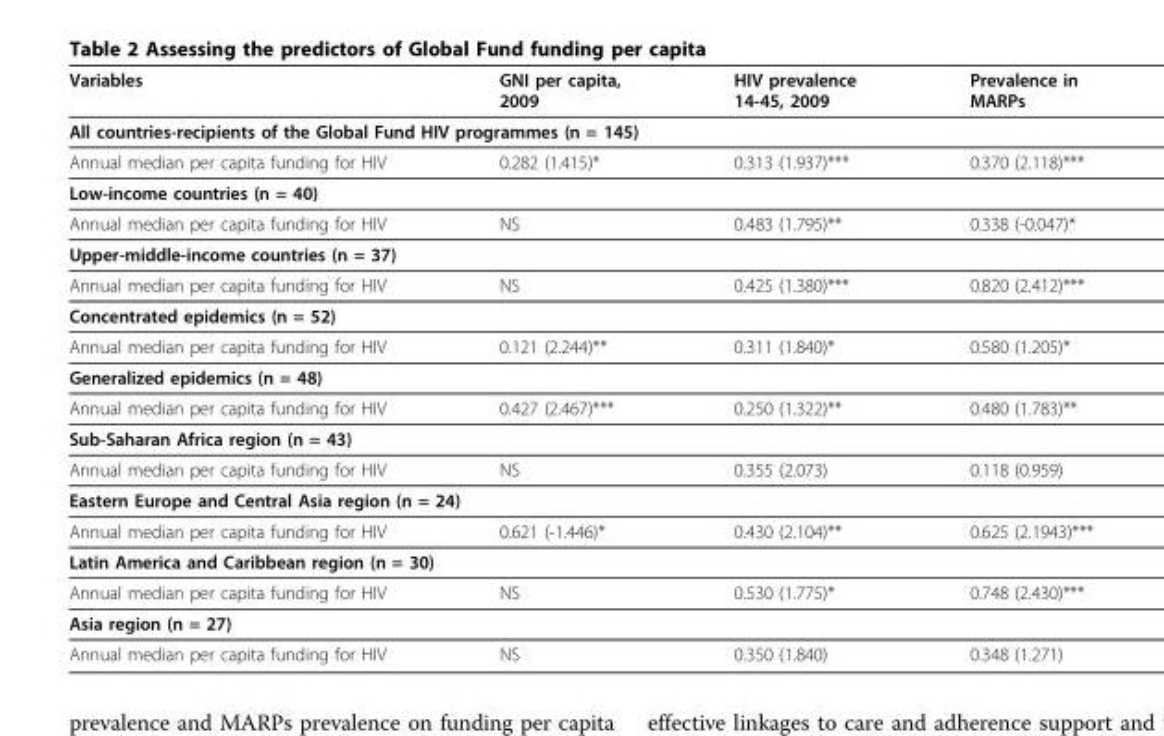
<table><thead><tr><td>Variables</td><td>GNI per capita, 2009</td><td>HIV prevalence 14-45, 2009</td><td>Prevalence in MARPs</td></tr></thead><tbody><tr><td colspan="4">All countries-recipients of the Global Fund HIV programmes (n = 145)</td></tr><tr><td>Annual median per capita funding for HIV</td><td>0.282 (1.415)*</td><td>0.313 (1.937)***</td><td>0.370 (2.118)***</td></tr><tr><td colspan="4">Low-income countries (n = 40)</td></tr><tr><td>Annual median per capita funding for HIV</td><td>NS</td><td>0.483 (1.795)**</td><td>0.338 (-0.047)*</td></tr><tr><td colspan="4">Upper-middle-income countries (n = 37)</td></tr><tr><td>Annual median per capita funding for HIV</td><td>NS</td><td>0.425 (1.380)***</td><td>0.820 (2.412)***</td></tr><tr><td colspan="4">Concentrated epidemics (n = 52)</td></tr><tr><td>Annual median per capita funding for HIV</td><td>0.121 (2.244)**</td><td>0.311 (1.840)*</td><td>0.580 (1.205)*</td></tr><tr><td colspan="4">Generalized epidemics (n = 48)</td></tr><tr><td>Annual median per capita funding for HIV</td><td>0.427 (2.467)***</td><td>0.250 (1.322)**</td><td>0.480 (1.783)**</td></tr><tr><td colspan="4">Sub-Saharan Africa region (n = 43)</td></tr><tr><td>Annual median per capita funding for HIV</td><td>NS</td><td>0.355 (2.073)</td><td>0.118 (0.959)</td></tr><tr><td colspan="4">Eastern Europe and Central Asia region (n = 24)</td></tr><tr><td>Annual median per capita funding for HIV</td><td>0.621 (-1.446)*</td><td>0.430 (2.104)**</td><td>0.625 (2.1943)***</td></tr><tr><td colspan="4">Latin America and Caribbean region (n = 30)</td></tr><tr><td>Annual median per capita funding for HIV</td><td>NS</td><td>0.530 (1.775)*</td><td>0.748 (2.430)***</td></tr><tr><td colspan="4">Asia region (n = 27)</td></tr><tr><td>Annual median per capita funding for HIV</td><td>NS</td><td>0.350 (1.840)</td><td>0.348 (1.271)</td></tr></tbody></table>